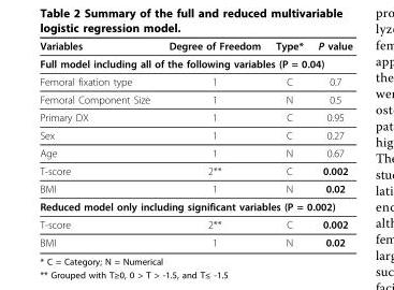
<table><thead><tr><td>Variables</td><td>Degree of Freedom</td><td>Type*</td><td>P value</td></tr></thead><tbody><tr><td colspan="4">Full model including all of the following variables (P = 0.04)</td></tr><tr><td>Femoral fixation type</td><td>1</td><td>C</td><td>0.7</td></tr><tr><td>Femoral Component Size</td><td>1</td><td>N</td><td>0.5</td></tr><tr><td>Primary DX</td><td>1</td><td>C</td><td>0.95</td></tr><tr><td>Sex</td><td>1</td><td>C</td><td>0.27</td></tr><tr><td>Age</td><td>1</td><td>N</td><td>0.67</td></tr><tr><td>T-score</td><td>2**</td><td>C</td><td>0.002</td></tr><tr><td>BMI</td><td>1</td><td>N</td><td>0.02</td></tr><tr><td colspan="4">Reduced model only including significant variables (P = 0.002)</td></tr><tr><td>T-score</td><td>2**</td><td>C</td><td>0.002</td></tr><tr><td>BMI</td><td>1</td><td>N</td><td>0.02</td></tr></tbody></table>